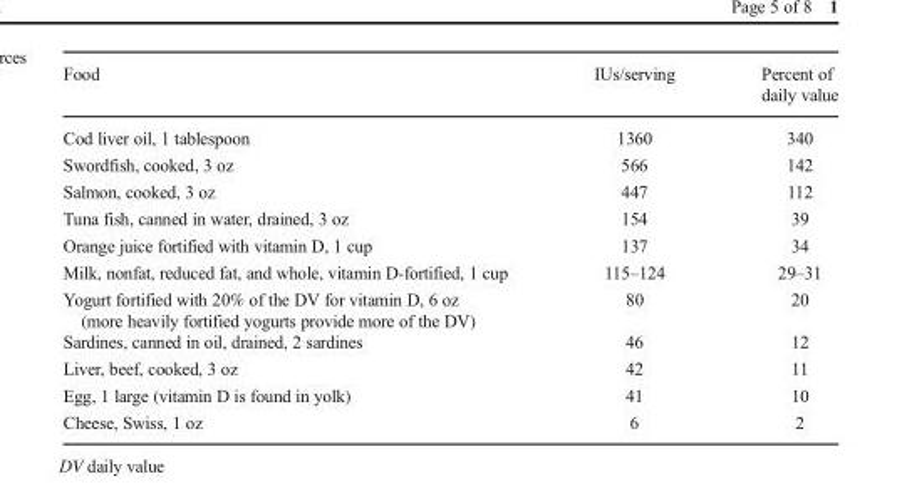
<table><thead><tr><td>Food</td><td>IUs/serving</td><td>Percent of daily value</td></tr></thead><tbody><tr><td>Cod liver oil, 1 tablespoon</td><td>1360</td><td>340</td></tr><tr><td>Swordfish, cooked, 3 oz</td><td>566</td><td>142</td></tr><tr><td>Salmon, cooked, 3 oz</td><td>447</td><td>112</td></tr><tr><td>Tuna fish, canned in water, drained, 3 oz</td><td>154</td><td>39</td></tr><tr><td>Orange juice fortified with vitamin D, 1 cup</td><td>137</td><td>34</td></tr><tr><td>Milk, nonfat, reduced fat, and whole, vitamin D-fortified, 1 cup</td><td>115–124</td><td>29–31</td></tr><tr><td>Yogurt fortified with 20% of the DV for vitamin D, 6 oz (more heavily fortified yogurts provide more of the DV)</td><td>80</td><td>20</td></tr><tr><td>Sardines, canned in oil, drained, 2 sardines</td><td>46</td><td>12</td></tr><tr><td>Liver, beef, cooked, 3 oz</td><td>42</td><td>11</td></tr><tr><td>Egg, 1 large (vitamin D is found in yolk)</td><td>41</td><td>10</td></tr><tr><td>Cheese, Swiss, 1 oz</td><td>6</td><td>2</td></tr></tbody></table>